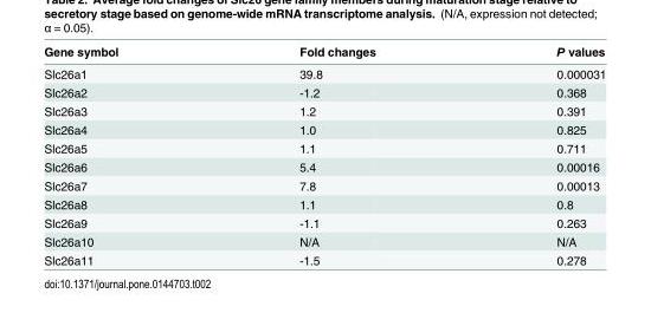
<table><thead><tr><td>Gene symbol</td><td>Fold changes</td><td>P values</td></tr></thead><tbody><tr><td>Slc26a1</td><td>39.8</td><td>0.000031</td></tr><tr><td>Slc26a2</td><td>-1.2</td><td>0.368</td></tr><tr><td>Slc26a3</td><td>1.2</td><td>0.391</td></tr><tr><td>Slc26a4</td><td>1.0</td><td>0.825</td></tr><tr><td>Slc26a5</td><td>1.1</td><td>0.711</td></tr><tr><td>Slc26a6</td><td>5.4</td><td>0.00016</td></tr><tr><td>Slc26a7</td><td>7.8</td><td>0.00013</td></tr><tr><td>Slc26a8</td><td>1.1</td><td>0.8</td></tr><tr><td>Slc26a9</td><td>-1.1</td><td>0.263</td></tr><tr><td>Slc26a10</td><td>N/A</td><td>N/A</td></tr><tr><td>Slc26a11</td><td>-1.5</td><td>0.278</td></tr></tbody></table>